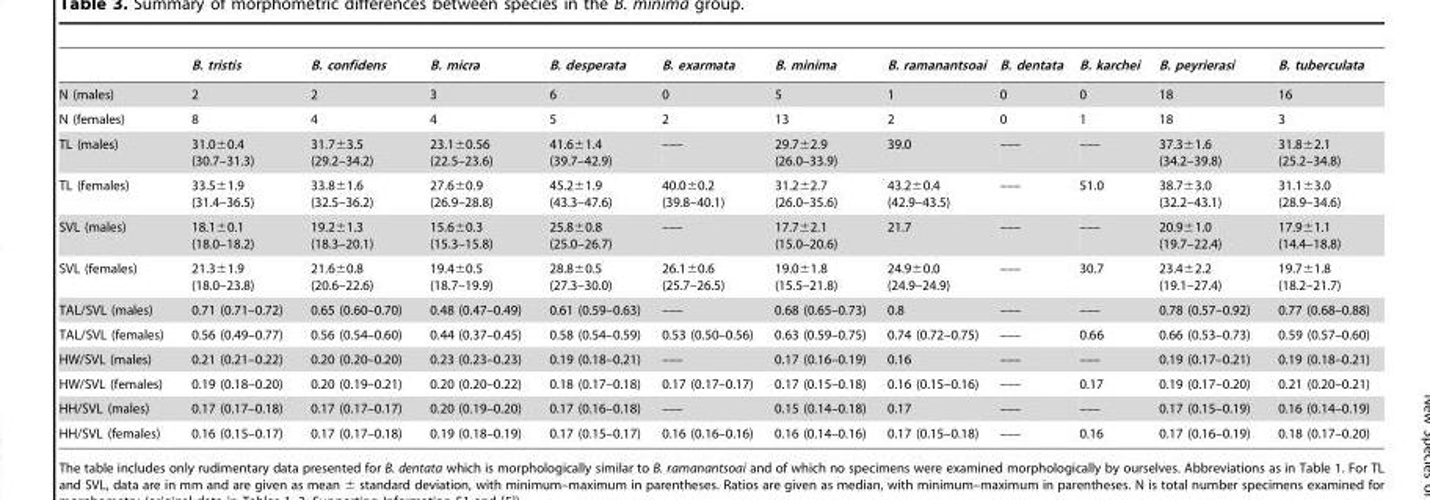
<table><thead><tr><td></td><td>B. tristis</td><td>B. confidens</td><td>B. micra</td><td>B. desperata</td><td>B. exarmata</td><td>B. minima</td><td>B. ramanantsoai</td><td>B. dentata</td><td>B. karchei</td><td>B. peyrierasi</td><td>B. tuberculata</td></tr></thead><tbody><tr><td>N (males)</td><td>2</td><td>2</td><td>3</td><td>6</td><td>0</td><td>5</td><td>1</td><td>0</td><td>0</td><td>18</td><td>16</td></tr><tr><td>N (females)</td><td>8</td><td>4</td><td>4</td><td>5</td><td>2</td><td>13</td><td>2</td><td>0</td><td>1</td><td>18</td><td>3</td></tr><tr><td>TL (males)</td><td>31.0±0.4 (30.7–31.3)</td><td>31.7±3.5 (29.2–34.2)</td><td>23.1±0.56 (22.5–23.6)</td><td>41.6±1.4 (39.7–42.9)</td><td>–––</td><td>29.7±2.9 (26.0–33.9)</td><td>39.0</td><td>–––</td><td>–––</td><td>37.3±1.6 (34.2–39.8)</td><td>31.8±2.1 (25.2–34.8)</td></tr><tr><td>TL (females)</td><td>33.5±1.9 (31.4–36.5)</td><td>33.8±1.6 (32.5–36.2)</td><td>27.6±0.9 (26.9–28.8)</td><td>45.2±1.9 (43.3–47.6)</td><td>40.0±0.2 (39.8–40.1)</td><td>31.2±2.7 (26.0–35.6)</td><td>43.2±0.4 (42.9–43.5)</td><td>–––</td><td>51.0</td><td>38.7±3.0 (32.2–43.1)</td><td>31.1±3.0 (28.9–34.6)</td></tr><tr><td>SVL (males)</td><td>18.1±0.1 (18.0–18.2)</td><td>19.2±1.3 (18.3–20.1)</td><td>15.6±0.3 (15.3–15.8)</td><td>25.8±0.8 (25.0–26.7)</td><td>–––</td><td>17.7±2.1 (15.0–20.6)</td><td>21.7</td><td>–––</td><td>–––</td><td>20.9±1.0 (19.7–22.4)</td><td>17.9±1.1 (14.4–18.8)</td></tr><tr><td>SVL (females)</td><td>21.3±1.9 (18.0–23.8)</td><td>21.6±0.8 (20.6–22.6)</td><td>19.4±0.5 (18.7–19.9)</td><td>28.8±0.5 (27.3–30.0)</td><td>26.1±0.6 (25.7–26.5)</td><td>19.0±1.8 (15.5–21.8)</td><td>24.9±0.0 (24.9–24.9)</td><td>–––</td><td>30.7</td><td>23.4±2.2 (19.1–27.4)</td><td>19.7±1.8 (18.2–21.7)</td></tr><tr><td>TAL/SVL (males)</td><td>0.71 (0.71–0.72)</td><td>0.65 (0.60–0.70)</td><td>0.48 (0.47–0.49)</td><td>0.61 (0.59–0.63)</td><td>–––</td><td>0.68 (0.65–0.73)</td><td>0.8</td><td>–––</td><td>–––</td><td>0.78 (0.57–0.92)</td><td>0.77 (0.68–0.88)</td></tr><tr><td>TAL/SVL (females)</td><td>0.56 (0.49–0.77)</td><td>0.56 (0.54–0.60)</td><td>0.44 (0.37–0.45)</td><td>0.58 (0.54–0.59)</td><td>0.53 (0.50–0.56)</td><td>0.63 (0.59–0.75)</td><td>0.74 (0.72–0.75)</td><td>–––</td><td>0.66</td><td>0.66 (0.53–0.73)</td><td>0.59 (0.57–0.60)</td></tr><tr><td>HW/SVL (males)</td><td>0.21 (0.21–0.22)</td><td>0.20 (0.20–0.20)</td><td>0.23 (0.23–0.23)</td><td>0.19 (0.18–0.21)</td><td>–––</td><td>0.17 (0.16–0.19)</td><td>0.16</td><td>–––</td><td>–––</td><td>0.19 (0.17–0.21)</td><td>0.19 (0.18–0.21)</td></tr><tr><td>HW/SVL (females)</td><td>0.19 (0.18–0.20)</td><td>0.20 (0.19–0.21)</td><td>0.20 (0.20–0.22)</td><td>0.18 (0.17–0.18)</td><td>0.17 (0.17–0.17)</td><td>0.17 (0.15–0.18)</td><td>0.16 (0.15–0.16)</td><td>–––</td><td>0.17</td><td>0.19 (0.17–0.20)</td><td>0.21 (0.20–0.21)</td></tr><tr><td>HH/SVL (males)</td><td>0.17 (0.17–0.18)</td><td>0.17 (0.17–0.17)</td><td>0.20 (0.19–0.20)</td><td>0.17 (0.16–0.18)</td><td>–––</td><td>0.15 (0.14–0.18)</td><td>0.17</td><td>–––</td><td>–––</td><td>0.17 (0.15–0.19)</td><td>0.16 (0.14–0.19)</td></tr><tr><td>HH/SVL (females)</td><td>0.16 (0.15–0.17)</td><td>0.17 (0.17–0.18)</td><td>0.19 (0.18–0.19)</td><td>0.17 (0.15–0.17)</td><td>0.16 (0.16–0.16)</td><td>0.16 (0.14–0.16)</td><td>0.17 (0.15–0.18)</td><td>–––</td><td>0.16</td><td>0.17 (0.16–0.19)</td><td>0.18 (0.17–0.20)</td></tr></tbody></table>